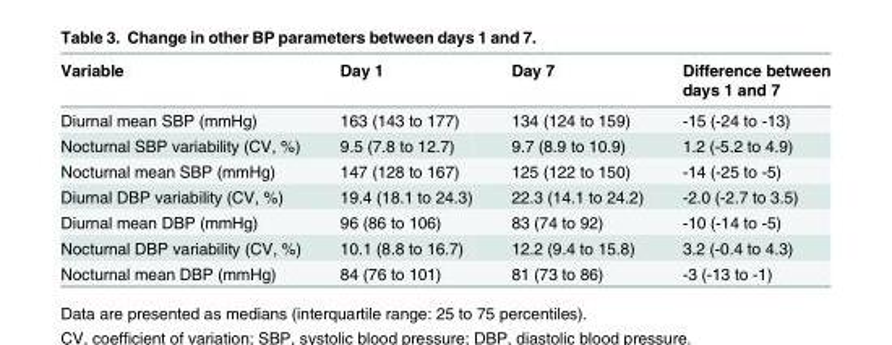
<table><thead><tr><td>Variable</td><td>Day 1</td><td>Day 7</td><td>Difference between days 1 and 7</td></tr></thead><tbody><tr><td>Diurnal mean SBP (mmHg)</td><td>163 (143 to 177)</td><td>134 (124 to 159)</td><td>-15 (-24 to -13)</td></tr><tr><td>Nocturnal SBP variability (CV, %)</td><td>9.5 (7.8 to 12.7)</td><td>9.7 (8.9 to 10.9)</td><td>1.2 (-5.2 to 4.9)</td></tr><tr><td>Nocturnal mean SBP (mmHg)</td><td>147 (128 to 167)</td><td>125 (122 to 150)</td><td>-14 (-25 to -5)</td></tr><tr><td>Diurnal DBP variability (CV, %)</td><td>19.4 (18.1 to 24.3)</td><td>22.3 (14.1 to 24.2)</td><td>-2.0 (-2.7 to 3.5)</td></tr><tr><td>Diurnal mean DBP (mmHg)</td><td>96 (86 to 106)</td><td>83 (74 to 92)</td><td>-10 (-14 to -5)</td></tr><tr><td>Nocturnal DBP variability (CV, %)</td><td>10.1 (8.8 to 16.7)</td><td>12.2 (9.4 to 15.8)</td><td>3.2 (-0.4 to 4.3)</td></tr><tr><td>Nocturnal mean DBP (mmHg)</td><td>84 (76 to 101)</td><td>81 (73 to 86)</td><td>-3 (-13 to -1)</td></tr></tbody></table>